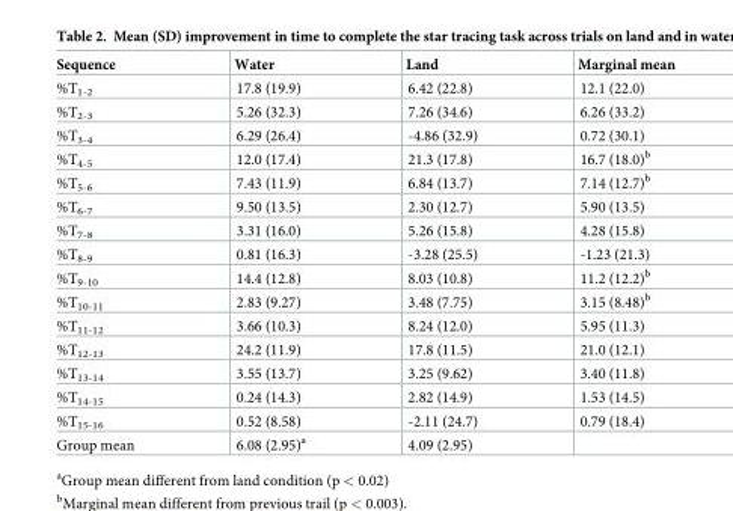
<table><thead><tr><td>Sequence</td><td>Water</td><td>Land</td><td>Marginal mean</td></tr></thead><tbody><tr><td>%T<sub>1-2</sub></td><td>17.8 (19.9)</td><td>6.42 (22.8)</td><td>12.1 (22.0)</td></tr><tr><td>%T<sub>2-3</sub></td><td>5.26 (32.3)</td><td>7.26 (34.6)</td><td>6.26 (33.2)</td></tr><tr><td>%T<sub>3-4</sub></td><td>6.29 (26.4)</td><td>-4.86 (32.9)</td><td>0.72 (30.1)</td></tr><tr><td>%T<sub>4-5</sub></td><td>12.0 (17.4)</td><td>21.3 (17.8)</td><td>16.7 (18.0)<sup>b</sup></td></tr><tr><td>%T<sub>5-6</sub></td><td>7.43 (11.9)</td><td>6.84 (13.7)</td><td>7.14 (12.7)<sup>b</sup></td></tr><tr><td>%T<sub>6-7</sub></td><td>9.50 (13.5)</td><td>2.30 (12.7)</td><td>5.90 (13.5)</td></tr><tr><td>%T<sub>7-8</sub></td><td>3.31 (16.0)</td><td>5.26 (15.8)</td><td>4.28 (15.8)</td></tr><tr><td>%T<sub>8-9</sub></td><td>0.81 (16.3)</td><td>-3.28 (25.5)</td><td>-1.23 (21.3)</td></tr><tr><td>%T<sub>9-10</sub></td><td>14.4 (12.8)</td><td>8.03 (10.8)</td><td>11.2 (12.2)<sup>b</sup></td></tr><tr><td>%T<sub>10-11</sub></td><td>2.83 (9.27)</td><td>3.48 (7.75)</td><td>3.15 (8.48)<sup>b</sup></td></tr><tr><td>%T<sub>11-12</sub></td><td>3.66 (10.3)</td><td>8.24 (12.0)</td><td>5.95 (11.3)</td></tr><tr><td>%T<sub>12-13</sub></td><td>24.2 (11.9)</td><td>17.8 (11.5)</td><td>21.0 (12.1)</td></tr><tr><td>%T<sub>13-14</sub></td><td>3.55 (13.7)</td><td>3.25 (9.62)</td><td>3.40 (11.8)</td></tr><tr><td>%T<sub>14-15</sub></td><td>0.24 (14.3)</td><td>2.82 (14.9)</td><td>1.53 (14.5)</td></tr><tr><td>%T<sub>15-16</sub></td><td>0.52 (8.58)</td><td>-2.11 (24.7)</td><td>0.79 (18.4)</td></tr><tr><td>Group mean</td><td>6.08 (2.95)<sup>a</sup></td><td>4.09 (2.95)</td><td></td></tr></tbody></table>